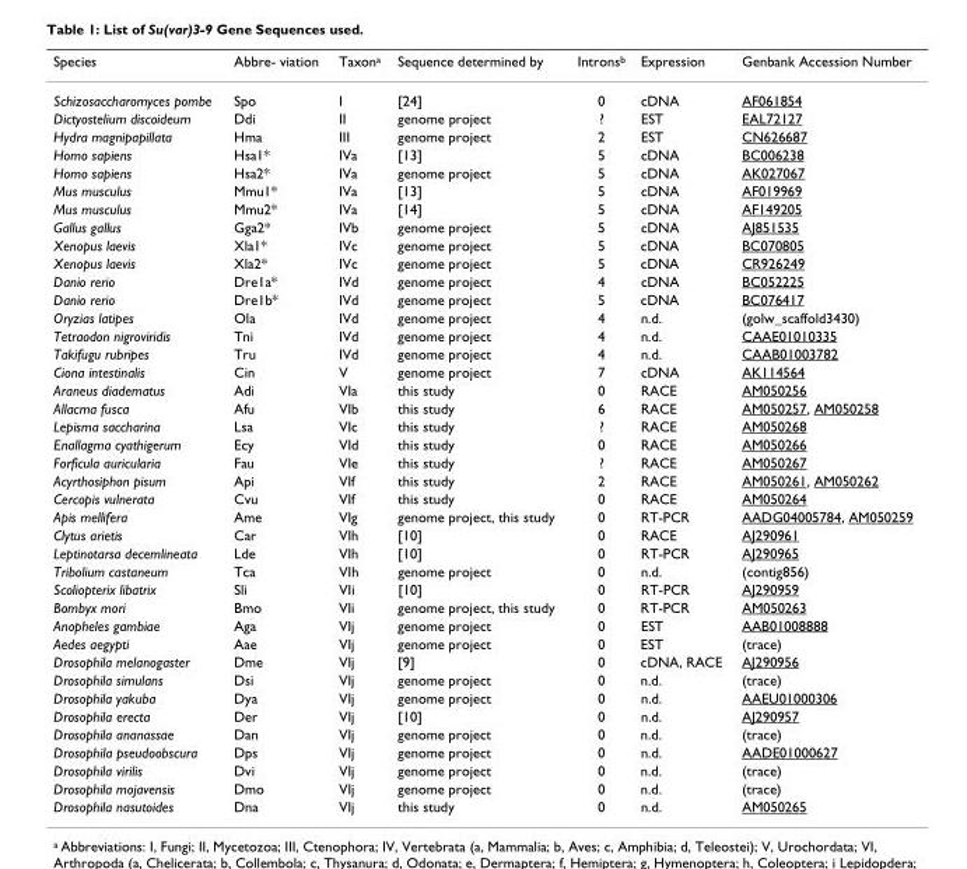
<table><thead><tr><td>Species</td><td>Abbre- viation</td><td>Taxon<sup>a</sup></td><td>Sequence determined by</td><td>Introns<sup>b</sup></td><td>Expression</td><td>Genbank Accession Number</td></tr></thead><tbody><tr><td>Schizosaccharomyces pombe</td><td>Spo</td><td>I</td><td>[24]</td><td>0</td><td>cDNA</td><td>AF061854</td></tr><tr><td>Dictyostelium discoideum</td><td>Ddi</td><td>II</td><td>genome project</td><td>?</td><td>EST</td><td>EAL72127</td></tr><tr><td>Hydra magnipapillata</td><td>Hma</td><td>III</td><td>genome project</td><td>2</td><td>EST</td><td>CN626687</td></tr><tr><td>Homo sapiens</td><td>Hsa1*</td><td>IVa</td><td>[13]</td><td>5</td><td>cDNA</td><td>BC006238</td></tr><tr><td>Homo sapiens</td><td>Hsa2*</td><td>IVa</td><td>genome project</td><td>5</td><td>cDNA</td><td>AK027067</td></tr><tr><td>Mus musculus</td><td>Mmu1*</td><td>IVa</td><td>[13]</td><td>5</td><td>cDNA</td><td>AF019969</td></tr><tr><td>Mus musculus</td><td>Mmu2*</td><td>IVa</td><td>[14]</td><td>5</td><td>cDNA</td><td>AF149205</td></tr><tr><td>Gallus gallus</td><td>Gga2*</td><td>IVb</td><td>genome project</td><td>5</td><td>cDNA</td><td>AJ851535</td></tr><tr><td>Xenopus laevis</td><td>Xla1*</td><td>IVc</td><td>genome project</td><td>5</td><td>cDNA</td><td>BC070805</td></tr><tr><td>Xenopus laevis</td><td>Xla2*</td><td>IVc</td><td>genome project</td><td>5</td><td>cDNA</td><td>CR926249</td></tr><tr><td>Danio rerio</td><td>Dre1a*</td><td>IVd</td><td>genome project</td><td>4</td><td>cDNA</td><td>BC052225</td></tr><tr><td>Danio rerio</td><td>Dre1b*</td><td>IVd</td><td>genome project</td><td>5</td><td>cDNA</td><td>BC076417</td></tr><tr><td>Oryzias latipes</td><td>Ola</td><td>IVd</td><td>genome project</td><td>4</td><td>n.d.</td><td>(golw_scaffold3430)</td></tr><tr><td>Tetraodon nigroviridis</td><td>Tni</td><td>IVd</td><td>genome project</td><td>4</td><td>n.d.</td><td>CAAE01010335</td></tr><tr><td>Takifugu rubripes</td><td>Tru</td><td>IVd</td><td>genome project</td><td>4</td><td>n.d.</td><td>CAAB01003782</td></tr><tr><td>Ciona intestinalis</td><td>Cin</td><td>V</td><td>genome project</td><td>7</td><td>cDNA</td><td>AK114564</td></tr><tr><td>Araneus diadematus</td><td>Adi</td><td>VIa</td><td>this study</td><td>0</td><td>RACE</td><td>AM050256</td></tr><tr><td>Allacma fusca</td><td>Afu</td><td>VIb</td><td>this study</td><td>6</td><td>RACE</td><td>AM050257, AM050258</td></tr><tr><td>Lepisma saccharina</td><td>Lsa</td><td>VIc</td><td>this study</td><td>?</td><td>RACE</td><td>AM050268</td></tr><tr><td>Enallagma cyathigerum</td><td>Ecy</td><td>VId</td><td>this study</td><td>0</td><td>RACE</td><td>AM050266</td></tr><tr><td>Forficula auricularia</td><td>Fau</td><td>VIe</td><td>this study</td><td>?</td><td>RACE</td><td>AM050267</td></tr><tr><td>Acyrthosiphon pisum</td><td>Api</td><td>VIf</td><td>this study</td><td>2</td><td>RACE</td><td>AM050261, AM050262</td></tr><tr><td>Cercopis vulnerata</td><td>Cvu</td><td>VIf</td><td>this study</td><td>0</td><td>RACE</td><td>AM050264</td></tr><tr><td>Apis mellifera</td><td>Ame</td><td>VIg</td><td>genome project, this study</td><td>0</td><td>RT-PCR</td><td>AADG04005784, AM050259</td></tr><tr><td>Clytus arietis</td><td>Car</td><td>VIh</td><td>[10]</td><td>0</td><td>RACE</td><td>AJ290961</td></tr><tr><td>Leptinotarsa decemlineata</td><td>Lde</td><td>VIh</td><td>[10]</td><td>0</td><td>RT-PCR</td><td>AJ290965</td></tr><tr><td>Tribolium castaneum</td><td>Tca</td><td>VIh</td><td>genome project</td><td>0</td><td>n.d.</td><td>(contig856)</td></tr><tr><td>Scoliopterix libatrix</td><td>Sli</td><td>VIi</td><td>[10]</td><td>0</td><td>RT-PCR</td><td>AJ290959</td></tr><tr><td>Bombyx mori</td><td>Bmo</td><td>VIi</td><td>genome project, this study</td><td>0</td><td>RT-PCR</td><td>AM050263</td></tr><tr><td>Anopheles gambiae</td><td>Aga</td><td>VIj</td><td>genome project</td><td>0</td><td>EST</td><td>AAB01008888</td></tr><tr><td>Aedes aegypti</td><td>Aae</td><td>VIj</td><td>genome project</td><td>0</td><td>EST</td><td>(trace)</td></tr><tr><td>Drosophila melanogaster</td><td>Dme</td><td>VIj</td><td>[9]</td><td>0</td><td>cDNA, RACE</td><td>AJ290956</td></tr><tr><td>Drosophila simulans</td><td>Dsi</td><td>VIj</td><td>genome project</td><td>0</td><td>n.d.</td><td>(trace)</td></tr><tr><td>Drosophila yakuba</td><td>Dya</td><td>VIj</td><td>genome project</td><td>0</td><td>n.d.</td><td>AAEU01000306</td></tr><tr><td>Drosophila erecta</td><td>Der</td><td>VIj</td><td>[10]</td><td>0</td><td>n.d.</td><td>AJ290957</td></tr><tr><td>Drosophila ananassae</td><td>Dan</td><td>VIj</td><td>genome project</td><td>0</td><td>n.d.</td><td>(trace)</td></tr><tr><td>Drosophila pseudoobscura</td><td>Dps</td><td>VIj</td><td>genome project</td><td>0</td><td>n.d.</td><td>AADE01000627</td></tr><tr><td>Drosophila virilis</td><td>Dvi</td><td>VIj</td><td>genome project</td><td>0</td><td>n.d.</td><td>(trace)</td></tr><tr><td>Drosophila mojavensis</td><td>Dmo</td><td>VIj</td><td>genome project</td><td>0</td><td>n.d.</td><td>(trace)</td></tr><tr><td>Drosophila nasutoides</td><td>Dna</td><td>VIj</td><td>this study</td><td>0</td><td>n.d.</td><td>AM050265</td></tr></tbody></table>